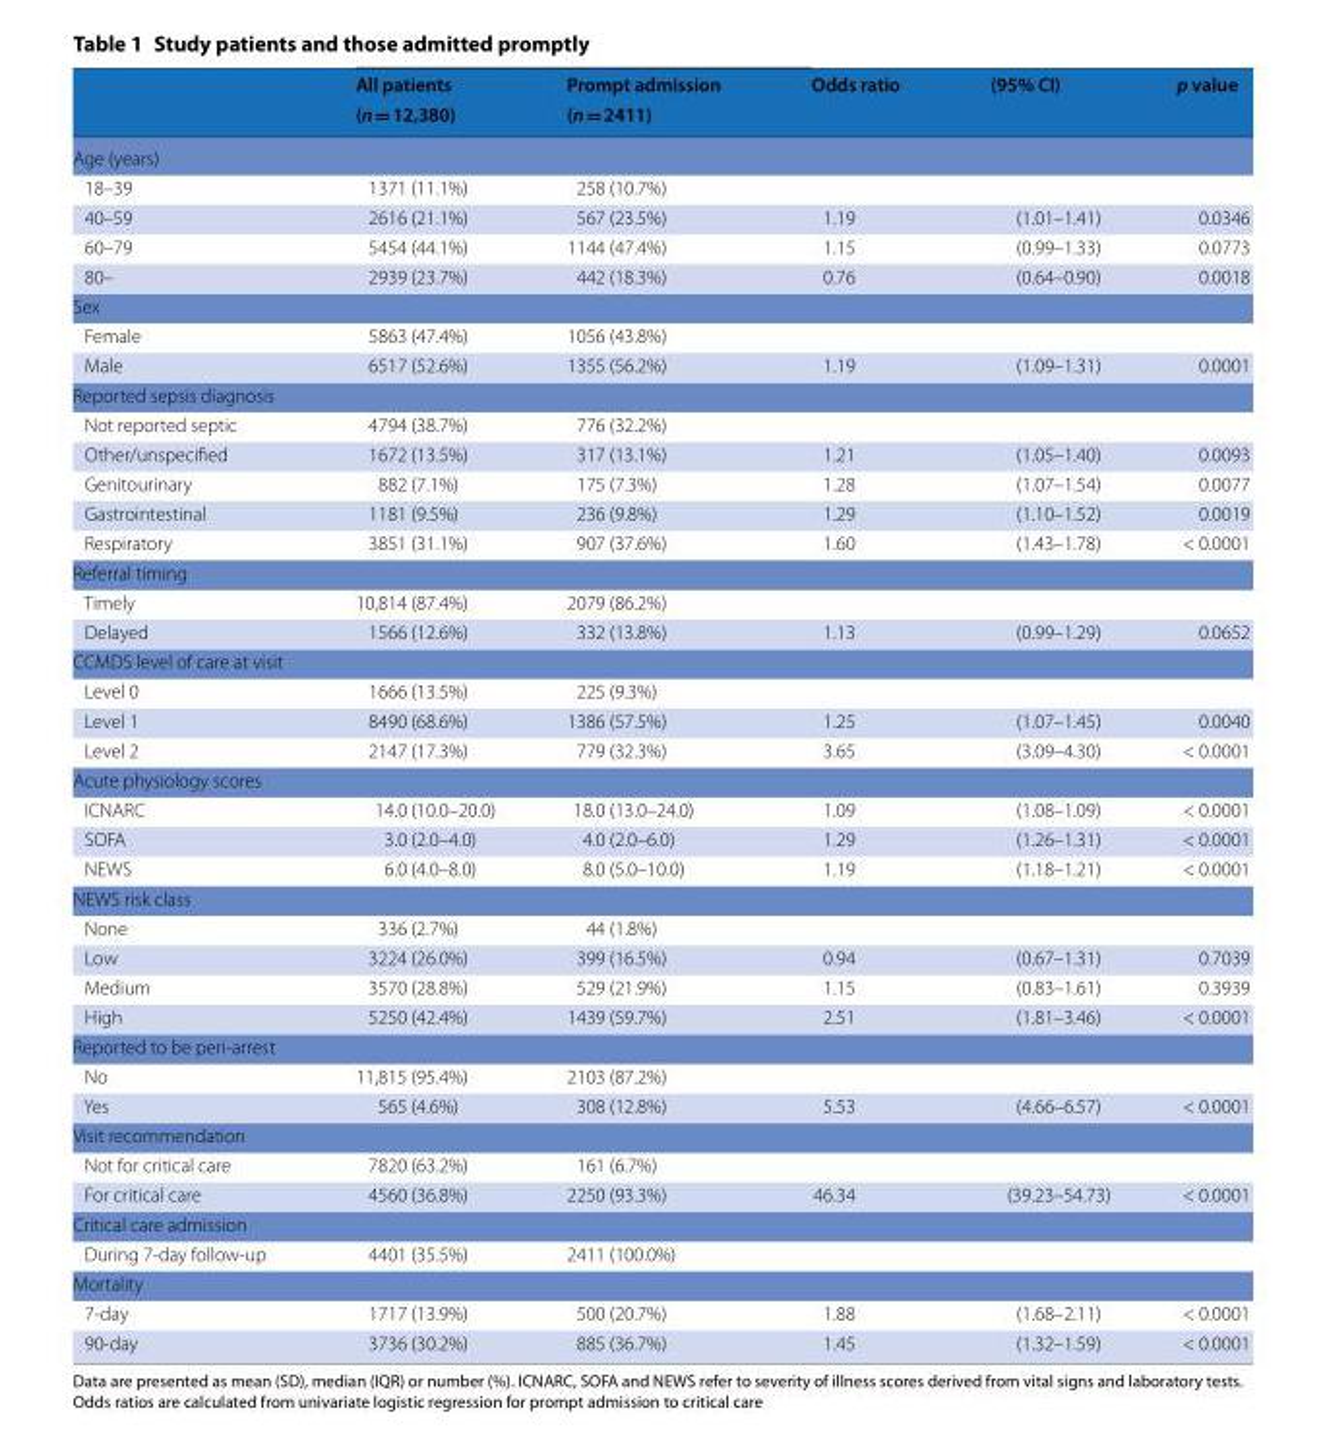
<table><thead><tr><td rowspan="2"></td><td rowspan="2">All patients (n = 12,380)</td><td rowspan="2">Prompt admission (n = 2411)</td><td rowspan="2">Odds ratio</td><td rowspan="2">(95% CI)</td><td rowspan="2">p value</td></tr><tr></tr></thead><tbody><tr><td colspan="6">Age (years)</td></tr><tr><td>18–39</td><td>1371 (11.1%)</td><td>258 (10.7%)</td><td></td><td></td><td></td></tr><tr><td>40–59</td><td>2616 (21.1%)</td><td>567 (23.5%)</td><td>1.19</td><td>(1.01–1.41)</td><td>0.0346</td></tr><tr><td>60–79</td><td>5454 (44.1%)</td><td>1144 (47.4%)</td><td>1.15</td><td>(0.99–1.33)</td><td>0.0773</td></tr><tr><td>80–</td><td>2939 (23.7%)</td><td>442 (18.3%)</td><td>0.76</td><td>(0.64–0.90)</td><td>0.0018</td></tr><tr><td colspan="6">Sex</td></tr><tr><td>Female</td><td>5863 (47.4%)</td><td>1056 (43.8%)</td><td></td><td></td><td></td></tr><tr><td>Male</td><td>6517 (52.6%)</td><td>1355 (56.2%)</td><td>1.19</td><td>(1.09–1.31)</td><td>0.0001</td></tr><tr><td colspan="6">Reported sepsis diagnosis</td></tr><tr><td>Not reported septic</td><td>4794 (38.7%)</td><td>776 (32.2%)</td><td></td><td></td><td></td></tr><tr><td>Other/unspecified</td><td>1672 (13.5%)</td><td>317 (13.1%)</td><td>1.21</td><td>(1.05–1.40)</td><td>0.0093</td></tr><tr><td>Genitourinary</td><td>882 (7.1%)</td><td>175 (7.3%)</td><td>1.28</td><td>(1.07–1.54)</td><td>0.0077</td></tr><tr><td>Gastrointestinal</td><td>1181 (9.5%)</td><td>236 (9.8%)</td><td>1.29</td><td>(1.10–1.52)</td><td>0.0019</td></tr><tr><td>Respiratory</td><td>3851 (31.1%)</td><td>907 (37.6%)</td><td>1.60</td><td>(1.43–1.78)</td><td>&lt; 0.0001</td></tr><tr><td colspan="6">Referral timing</td></tr><tr><td>Timely</td><td>10,814 (87.4%)</td><td>2079 (86.2%)</td><td></td><td></td><td></td></tr><tr><td>Delayed</td><td>1566 (12.6%)</td><td>332 (13.8%)</td><td>1.13</td><td>(0.99–1.29)</td><td>0.0652</td></tr><tr><td colspan="6">CCMDS level of care at visit</td></tr><tr><td>Level 0</td><td>1666 (13.5%)</td><td>225 (9.3%)</td><td></td><td></td><td></td></tr><tr><td>Level 1</td><td>8490 (68.6%)</td><td>1386 (57.5%)</td><td>1.25</td><td>(1.07–1.45)</td><td>0.0040</td></tr><tr><td>Level 2</td><td>2147 (17.3%)</td><td>779 (32.3%)</td><td>3.65</td><td>(3.09–4.30)</td><td>&lt; 0.0001</td></tr><tr><td colspan="6">Acute physiology scores</td></tr><tr><td>ICNARC</td><td>14.0 (10.0–20.0)</td><td>18.0 (13.0–24.0)</td><td>1.09</td><td>(1.08–1.09)</td><td>&lt; 0.0001</td></tr><tr><td>SOFA</td><td>3.0 (2.0–4.0)</td><td>4.0 (2.0–6.0)</td><td>1.29</td><td>(1.26–1.31)</td><td>&lt; 0.0001</td></tr><tr><td>NEWS</td><td>6.0 (4.0–8.0)</td><td>8.0 (5.0–10.0)</td><td>1.19</td><td>(1.18–1.21)</td><td>&lt; 0.0001</td></tr><tr><td colspan="6">NEWS risk class</td></tr><tr><td>None</td><td>336 (2.7%)</td><td>44 (1.8%)</td><td></td><td></td><td></td></tr><tr><td>Low</td><td>3224 (26.0%)</td><td>399 (16.5%)</td><td>0.94</td><td>(0.67–1.31)</td><td>0.7039</td></tr><tr><td>Medium</td><td>3570 (28.8%)</td><td>529 (21.9%)</td><td>1.15</td><td>(0.83–1.61)</td><td>0.3939</td></tr><tr><td>High</td><td>5250 (42.4%)</td><td>1439 (59.7%)</td><td>2.51</td><td>(1.81–3.46)</td><td>&lt; 0.0001</td></tr><tr><td colspan="6">Reported to be peri-arrest</td></tr><tr><td>No</td><td>11,815 (95.4%)</td><td>2103 (87.2%)</td><td></td><td></td><td></td></tr><tr><td>Yes</td><td>565 (4.6%)</td><td>308 (12.8%)</td><td>5.53</td><td>(4.66–6.57)</td><td>&lt; 0.0001</td></tr><tr><td colspan="6">Visit recommendation</td></tr><tr><td>Not for critical care</td><td>7820 (63.2%)</td><td>161 (6.7%)</td><td></td><td></td><td></td></tr><tr><td>For critical care</td><td>4560 (36.8%)</td><td>2250 (93.3%)</td><td>46.34</td><td>(39.23–54.73)</td><td>&lt; 0.0001</td></tr><tr><td colspan="6">Critical care admission</td></tr><tr><td>During 7-day follow-up</td><td>4401 (35.5%)</td><td>2411 (100.0%)</td><td></td><td></td><td></td></tr><tr><td colspan="6">Mortality</td></tr><tr><td>7-day</td><td>1717 (13.9%)</td><td>500 (20.7%)</td><td>1.88</td><td>(1.68–2.11)</td><td>&lt; 0.0001</td></tr><tr><td>90-day</td><td>3736 (30.2%)</td><td>885 (36.7%)</td><td>1.45</td><td>(1.32–1.59)</td><td>&lt; 0.0001</td></tr></tbody></table>